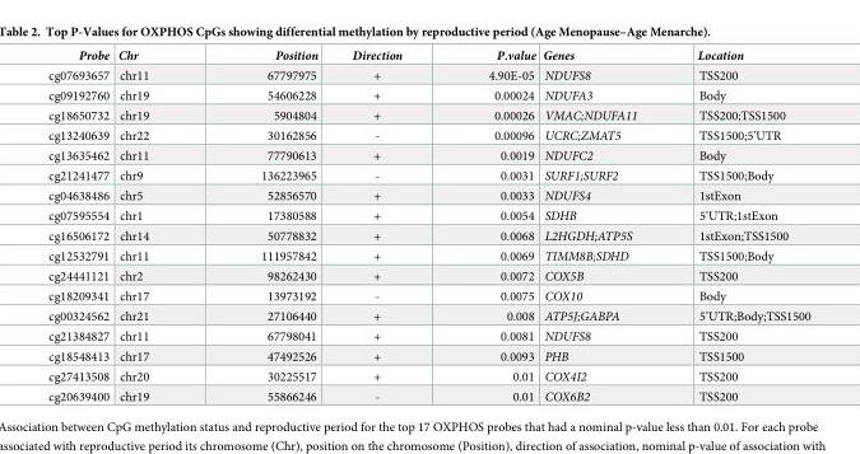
<table><thead><tr><td>Probe</td><td>Chr</td><td>Position</td><td>Direction</td><td>P.value</td><td>Genes</td><td>Location</td></tr></thead><tbody><tr><td>cg07693657</td><td>chr11</td><td>67797975</td><td>+</td><td>4.90E-05</td><td>NDUFS8</td><td>TSS200</td></tr><tr><td>cg09192760</td><td>chr19</td><td>54606228</td><td>+</td><td>0.00024</td><td>NDUFA3</td><td>Body</td></tr><tr><td>cg18650732</td><td>chr19</td><td>5904804</td><td>+</td><td>0.00026</td><td>VMAC;NDUFA11</td><td>TSS200;TSS1500</td></tr><tr><td>cg13240639</td><td>chr22</td><td>30162856</td><td>-</td><td>0.00096</td><td>UCRC;ZMAT5</td><td>TSS1500;5’UTR</td></tr><tr><td>cg13635462</td><td>chr11</td><td>77790613</td><td>+</td><td>0.0019</td><td>NDUFC2</td><td>Body</td></tr><tr><td>cg21241477</td><td>chr9</td><td>136223965</td><td>-</td><td>0.0031</td><td>SURF1;SURF2</td><td>TSS1500;Body</td></tr><tr><td>cg04638486</td><td>chr5</td><td>52856570</td><td>+</td><td>0.0033</td><td>NDUFS4</td><td>1stExon</td></tr><tr><td>cg07595554</td><td>chr1</td><td>17380588</td><td>+</td><td>0.0054</td><td>SDHB</td><td>5’UTR;1stExon</td></tr><tr><td>cg16506172</td><td>chr14</td><td>50778832</td><td>+</td><td>0.0068</td><td>L2HGDH;ATP5S</td><td>1stExon;TSS1500</td></tr><tr><td>cg12532791</td><td>chr11</td><td>111957842</td><td>+</td><td>0.0069</td><td>TIMM8B;SDHD</td><td>TSS1500;Body</td></tr><tr><td>cg24441121</td><td>chr2</td><td>98262430</td><td>+</td><td>0.0072</td><td>COX5B</td><td>TSS200</td></tr><tr><td>cg18209341</td><td>chr17</td><td>13973192</td><td>-</td><td>0.0075</td><td>COX10</td><td>Body</td></tr><tr><td>cg00324562</td><td>chr21</td><td>27106440</td><td>+</td><td>0.008</td><td>ATP5J;GABPA</td><td>5’UTR;Body;TSS1500</td></tr><tr><td>cg21384827</td><td>chr11</td><td>67798041</td><td>+</td><td>0.0081</td><td>NDUFS8</td><td>TSS200</td></tr><tr><td>cg18548413</td><td>chr17</td><td>47492526</td><td>+</td><td>0.0093</td><td>PHB</td><td>TSS1500</td></tr><tr><td>cg27413508</td><td>chr20</td><td>30225517</td><td>+</td><td>0.01</td><td>COX4I2</td><td>TSS200</td></tr><tr><td>cg20639400</td><td>chr19</td><td>55866246</td><td>-</td><td>0.01</td><td>COX6B2</td><td>TSS200</td></tr></tbody></table>